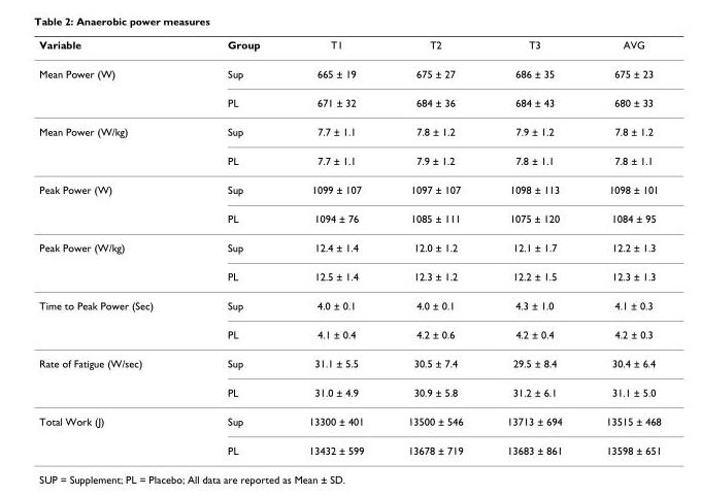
<table><thead><tr><td>Variable</td><td>Group</td><td>T1</td><td>T2</td><td>T3</td><td>AVG</td></tr></thead><tbody><tr><td rowspan="2">Mean Power (W)</td><td>Sup</td><td>665 ± 19</td><td>675 ± 27</td><td>686 ± 35</td><td>675 ± 23</td></tr><tr><td>PL</td><td>671 ± 32</td><td>684 ± 36</td><td>684 ± 43</td><td>680 ± 33</td></tr><tr><td rowspan="2">Mean Power (W/kg)</td><td>Sup</td><td>7.7 ± 1.1</td><td>7.8 ± 1.2</td><td>7.9 ± 1.2</td><td>7.8 ± 1.2</td></tr><tr><td>PL</td><td>7.7 ± 1.1</td><td>7.9 ± 1.2</td><td>7.8 ± 1.1</td><td>7.8 ± 1.1</td></tr><tr><td rowspan="2">Peak Power (W)</td><td>Sup</td><td>1099 ± 107</td><td>1097 ± 107</td><td>1098 ± 113</td><td>1098 ± 101</td></tr><tr><td>PL</td><td>1094 ± 76</td><td>1085 ± 111</td><td>1075 ± 120</td><td>1084 ± 95</td></tr><tr><td rowspan="2">Peak Power (W/kg)</td><td>Sup</td><td>12.4 ± 1.4</td><td>12.0 ± 1.2</td><td>12.1 ± 1.7</td><td>12.2 ± 1.3</td></tr><tr><td>PL</td><td>12.5 ± 1.4</td><td>12.3 ± 1.2</td><td>12.2 ± 1.5</td><td>12.3 ± 1.3</td></tr><tr><td rowspan="2">Time to Peak Power (Sec)</td><td>Sup</td><td>4.0 ± 0.1</td><td>4.0 ± 0.1</td><td>4.3 ± 1.0</td><td>4.1 ± 0.3</td></tr><tr><td>PL</td><td>4.1 ± 0.4</td><td>4.2 ± 0.6</td><td>4.2 ± 0.4</td><td>4.2 ± 0.3</td></tr><tr><td rowspan="2">Rate of Fatigue (W/sec)</td><td>Sup</td><td>31.1 ± 5.5</td><td>30.5 ± 7.4</td><td>29.5 ± 8.4</td><td>30.4 ± 6.4</td></tr><tr><td>PL</td><td>31.0 ± 4.9</td><td>30.9 ± 5.8</td><td>31.2 ± 6.1</td><td>31.1 ± 5.0</td></tr><tr><td rowspan="2">Total Work (J)</td><td>Sup</td><td>13300 ± 401</td><td>13500 ± 546</td><td>13713 ± 694</td><td>13515 ± 468</td></tr><tr><td>PL</td><td>13432 ± 599</td><td>13678 ± 719</td><td>13683 ± 861</td><td>13598 ± 651</td></tr></tbody></table>